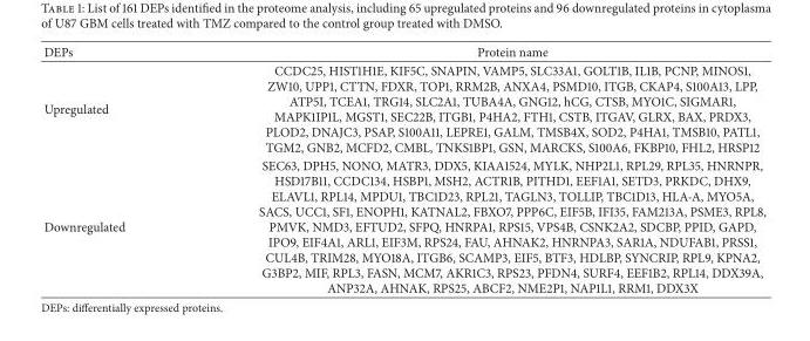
<table><thead><tr><td>DEPs</td><td>Protein name</td></tr></thead><tbody><tr><td>Upregulated</td><td>CCDC25, HIST1H1E, KIF5C, SNAPIN, VAMP5, SLC33A1, GOLT1B, IL1B, PCNP, MINOS1, ZW10, UPP1, CTTN, FDXR, TOP1, RRM2B, ANXA4, PSMD10, ITGB, CKAP4, S100A13, LPP, ATP5I, TCEA1, TRG14, SLC2A1, TUBA4A, GNG12, hCG, CTSB, MYO1C, SIGMAR1, MAPK1IP1L, MGST1, SEC22B, ITGB1, P4HA2, FTH1, CSTB, ITGAV, GLRX, BAX, PRDX3, PLOD2, DNAJC3, PSAP, S100A11, LEPRE1, GALM, TMSB4X, SOD2, P4HA1, TMSB10, PATL1, TGM2, GNB2, MCFD2, CMBL, TNKS1BP1, GSN, MARCKS, S100A6, FKBP10, FHL2, HRSP12</td></tr><tr><td>Downregulated</td><td>SEC63, DPH5, NONO, MATR3, DDX5, KIAA1524, MYLK, NHP2L1, RPL29, RPL35, HNRNPR, HSD17B11, CCDC134, HSBP1, MSH2, ACTR1B, PITHD1, EEF1A1, SETD3, PRKDC, DHX9, ELAVL1, RPL14, MPDU1, TBC1D23, RPL21, TAGLN3, TOLLIP, TBC1D13, HLA-A, MYO5A, SACS, UCC1, SF1, ENOPH1, KATNAL2, FBXO7, PPP6C, EIF5B, IFI35, FAM213A, PSME3, RPL8, PMVK, NMD3, EFTUD2, SFPQ, HNRPA1, RPS15, VPS4B, CSNK2A2, SDCBP, PPID, GAPD, IPO9, EIF4A1, ARL1, EIF3M, RPS24, FAU, AHNAK2, HNRNPA3, SAR1A, NDUFAB1, PRSS1, CUL4B, TRIM28, MYO18A, ITGB6, SCAMP3, EIF5, BTF3, HDLBP, SYNCRIP, RPL9, KPNA2, G3BP2, MIF, RPL3, FASN, MCM7, AKR1C3, RPS23, PFDN4, SURF4, EEF1B2, RPL14, DDX39A, ANP32A, AHNAK, RPS25, ABCF2, NME2P1, NAP1L1, RRM1, DDX3X</td></tr></tbody></table>